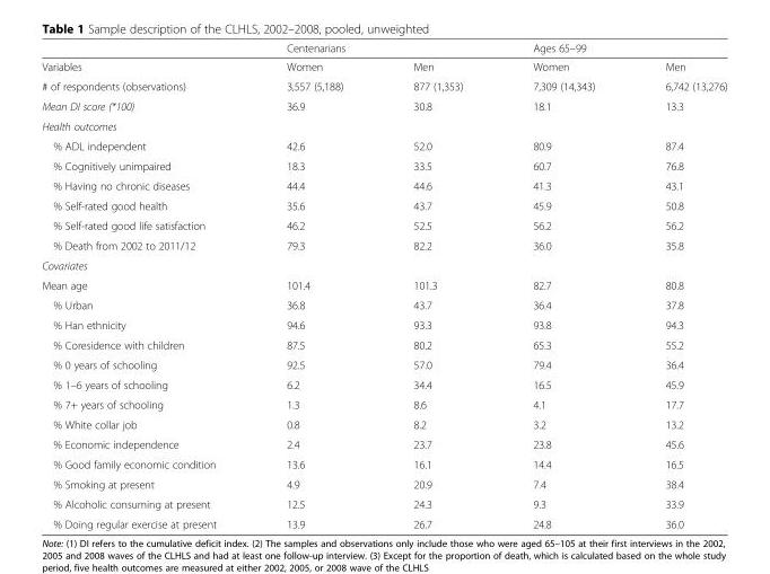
<table><thead><tr><td rowspan="2">Variables</td><td colspan="2">Centenarians</td><td colspan="2">Ages 65–99</td></tr><tr><td>Women</td><td>Men</td><td>Women</td><td>Men</td></tr></thead><tbody><tr><td># of respondents (observations)</td><td>3,557 (5,188)</td><td>877 (1,353)</td><td>7,309 (14,343)</td><td>6,742 (13,276)</td></tr><tr><td>Mean DI score (*100)</td><td>36.9</td><td>30.8</td><td>18.1</td><td>13.3</td></tr><tr><td colspan="5">Health outcomes</td></tr><tr><td>% ADL independent</td><td>42.6</td><td>52.0</td><td>80.9</td><td>87.4</td></tr><tr><td>% Cognitively unimpaired</td><td>18.3</td><td>33.5</td><td>60.7</td><td>76.8</td></tr><tr><td>% Having no chronic diseases</td><td>44.4</td><td>44.6</td><td>41.3</td><td>43.1</td></tr><tr><td>% Self-rated good health</td><td>35.6</td><td>43.7</td><td>45.9</td><td>50.8</td></tr><tr><td>% Self-rated good life satisfaction</td><td>46.2</td><td>52.5</td><td>56.2</td><td>56.2</td></tr><tr><td>% Death from 2002 to 2011/12</td><td>79.3</td><td>82.2</td><td>36.0</td><td>35.8</td></tr><tr><td colspan="5">Covariates</td></tr><tr><td>Mean age</td><td>101.4</td><td>101.3</td><td>82.7</td><td>80.8</td></tr><tr><td>% Urban</td><td>36.8</td><td>43.7</td><td>36.4</td><td>37.8</td></tr><tr><td>% Han ethnicity</td><td>94.6</td><td>93.3</td><td>93.8</td><td>94.3</td></tr><tr><td>% Coresidence with children</td><td>87.5</td><td>80.2</td><td>65.3</td><td>55.2</td></tr><tr><td>% 0 years of schooling</td><td>92.5</td><td>57.0</td><td>79.4</td><td>36.4</td></tr><tr><td>% 1–6 years of schooling</td><td>6.2</td><td>34.4</td><td>16.5</td><td>45.9</td></tr><tr><td>% 7+ years of schooling</td><td>1.3</td><td>8.6</td><td>4.1</td><td>17.7</td></tr><tr><td>% White collar job</td><td>0.8</td><td>8.2</td><td>3.2</td><td>13.2</td></tr><tr><td>% Economic independence</td><td>2.4</td><td>23.7</td><td>23.8</td><td>45.6</td></tr><tr><td>% Good family economic condition</td><td>13.6</td><td>16.1</td><td>14.4</td><td>16.5</td></tr><tr><td>% Smoking at present</td><td>4.9</td><td>20.9</td><td>7.4</td><td>38.4</td></tr><tr><td>% Alcoholic consuming at present</td><td>12.5</td><td>24.3</td><td>9.3</td><td>33.9</td></tr><tr><td>% Doing regular exercise at present</td><td>13.9</td><td>26.7</td><td>24.8</td><td>36.0</td></tr></tbody></table>